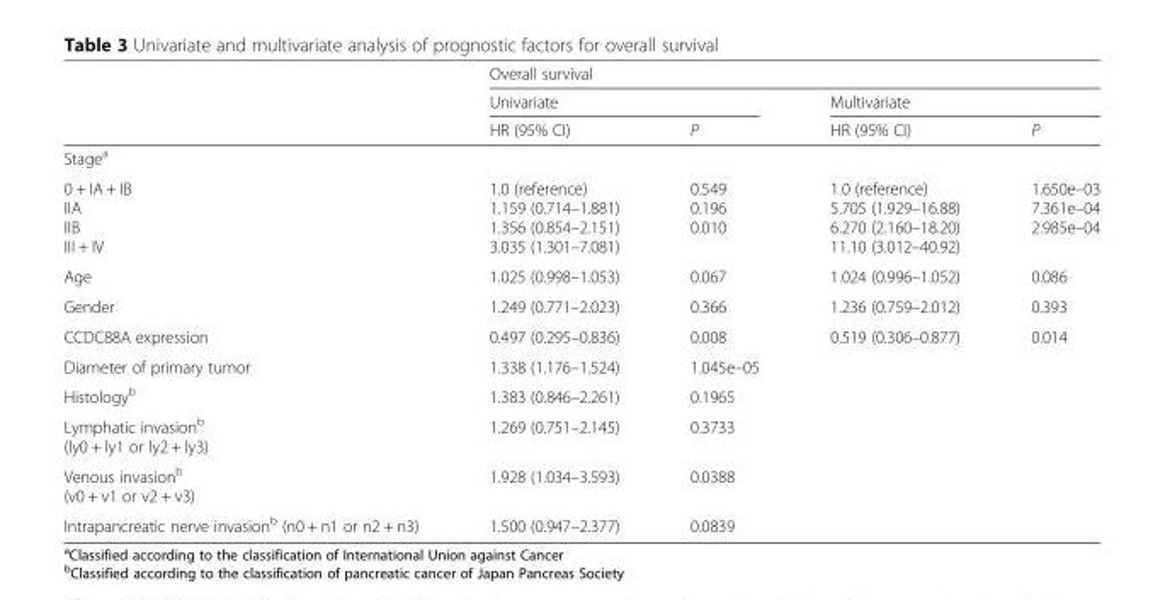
<table><thead><tr><td rowspan="3"></td><td colspan="4">Overall survival</td></tr><tr><td colspan="2">Univariate</td><td colspan="2">Multivariate</td></tr><tr><td>HR (95% CI)</td><td>P</td><td>HR (95% CI)</td><td>P</td></tr></thead><tbody><tr><td colspan="5">Stage<sup>a</sup></td></tr><tr><td>0 + IA + IB IIA IIB III + IV</td><td>1.0 (reference) 1.159 (0.714–1.881) 1.356 (0.854–2.151) 3.035 (1.301–7.081)</td><td>0.549 0.196 0.010</td><td>1.0 (reference) 5.705 (1.929–16.88) 6.270 (2.160–18.20) 11.10 (3.012–40.92)</td><td>1.650e–03 7.361e–04 2.985e–04</td></tr><tr><td>Age</td><td>1.025 (0.998–1.053)</td><td>0.067</td><td>1.024 (0.996–1.052)</td><td>0.086</td></tr><tr><td>Gender</td><td>1.249 (0.771–2.023)</td><td>0.366</td><td>1.236 (0.759–2.012)</td><td>0.393</td></tr><tr><td>CCDC88A expression</td><td>0.497 (0.295–0.836)</td><td>0.008</td><td>0.519 (0.306–0.877)</td><td>0.014</td></tr><tr><td>Diameter of primary tumor</td><td>1.338 (1.176–1.524)</td><td>1.045e–05</td><td></td><td></td></tr><tr><td>Histology<sup>b</sup></td><td>1.383 (0.846–2.261)</td><td>0.1965</td><td></td><td></td></tr><tr><td>Lymphatic invasion<sup>b</sup> (ly0 + ly1 or ly2 + ly3)</td><td>1.269 (0.751–2.145)</td><td>0.3733</td><td></td><td></td></tr><tr><td>Venous invasion<sup>b</sup> (v0 + v1 or v2 + v3)</td><td>1.928 (1.034–3.593)</td><td>0.0388</td><td></td><td></td></tr><tr><td>Intrapancreatic nerve invasion<sup>b</sup> (n0 + n1 or n2 + n3)</td><td>1.500 (0.947–2.377)</td><td>0.0839</td><td></td><td></td></tr></tbody></table>